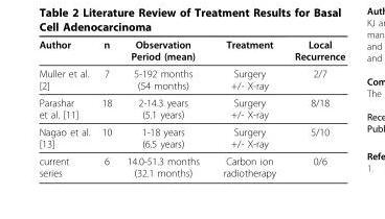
<table><thead><tr><td>Author</td><td>n</td><td>Observation Period (mean)</td><td>Treatment</td><td>Local Recurrence</td></tr></thead><tbody><tr><td>Muller et al. [2]</td><td>7</td><td>5-192 months (54 months)</td><td>Surgery +/- X-ray</td><td>2/7</td></tr><tr><td>Parashar et al. [11]</td><td>18</td><td>2-14.3 years (5.1 years)</td><td>Surgery +/- X-ray</td><td>8/18</td></tr><tr><td>Nagao et al. [13]</td><td>10</td><td>1-18 years (6.5 years)</td><td>Surgery +/- X-ray</td><td>5/10</td></tr><tr><td>current series</td><td>6</td><td>14.0-51.3 months (32.1 months)</td><td>Carbon ion radiotherapy</td><td>0/6</td></tr></tbody></table>